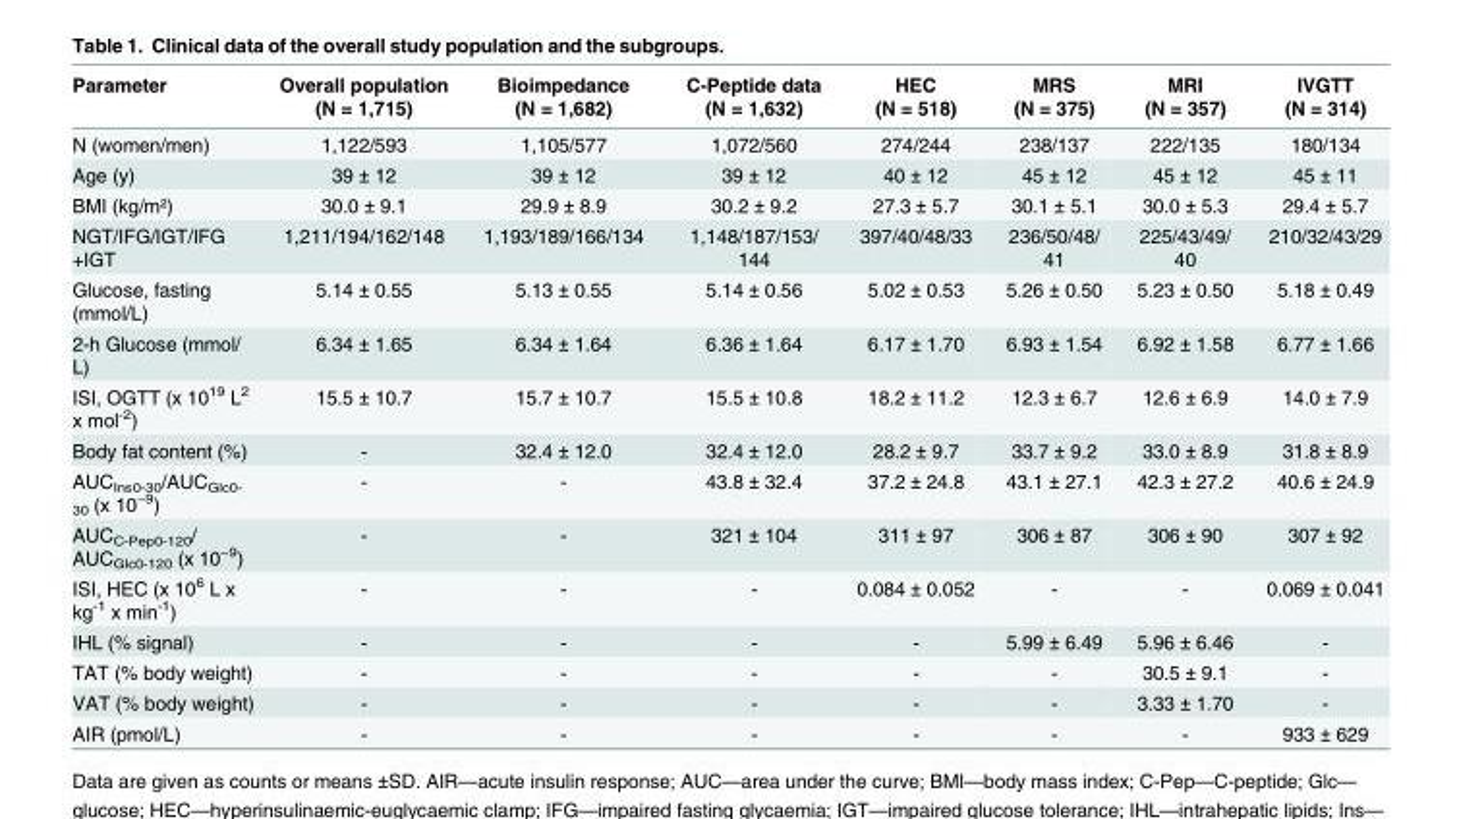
<table><thead><tr><td>Parameter</td><td>Overall population (N = 1,715)</td><td>Bioimpedance (N = 1,682)</td><td>C-Peptide data (N = 1,632)</td><td>HEC (N = 518)</td><td>MRS (N = 375)</td><td>MRI (N = 357)</td><td>IVGTT (N = 314)</td></tr></thead><tbody><tr><td>N (women/men)</td><td>1,122/593</td><td>1,105/577</td><td>1,072/560</td><td>274/244</td><td>238/137</td><td>222/135</td><td>180/134</td></tr><tr><td>Age (y)</td><td>39 ± 12</td><td>39 ± 12</td><td>39 ± 12</td><td>40 ± 12</td><td>45 ± 12</td><td>45 ± 12</td><td>45 ± 11</td></tr><tr><td>BMI (kg/m²)</td><td>30.0 ± 9.1</td><td>29.9 ± 8.9</td><td>30.2 ± 9.2</td><td>27.3 ± 5.7</td><td>30.1 ± 5.1</td><td>30.0 ± 5.3</td><td>29.4 ± 5.7</td></tr><tr><td>NGT/IFG/IGT/IFG +IGT</td><td>1,211/194/162/148</td><td>1,193/189/166/134</td><td>1,148/187/153/ 144</td><td>397/40/48/33</td><td>236/50/48/ 41</td><td>225/43/49/ 40</td><td>210/32/43/29</td></tr><tr><td>Glucose, fasting (mmol/L)</td><td>5.14 ± 0.55</td><td>5.13 ± 0.55</td><td>5.14 ± 0.56</td><td>5.02 ± 0.53</td><td>5.26 ± 0.50</td><td>5.23 ± 0.50</td><td>5.18 ± 0.49</td></tr><tr><td>2-h Glucose (mmol/ L)</td><td>6.34 ± 1.65</td><td>6.34 ± 1.64</td><td>6.36 ± 1.64</td><td>6.17 ± 1.70</td><td>6.93 ± 1.54</td><td>6.92 ± 1.58</td><td>6.77 ± 1.66</td></tr><tr><td>ISI, OGTT (x 10<sup>19</sup> L<sup>2</sup> x mol<sup>-2</sup>)</td><td>15.5 ± 10.7</td><td>15.7 ± 10.7</td><td>15.5 ± 10.8</td><td>18.2 ± 11.2</td><td>12.3 ± 6.7</td><td>12.6 ± 6.9</td><td>14.0 ± 7.9</td></tr><tr><td>Body fat content (%)</td><td>-</td><td>32.4 ± 12.0</td><td>32.4 ± 12.0</td><td>28.2 ± 9.7</td><td>33.7 ± 9.2</td><td>33.0 ± 8.9</td><td>31.8 ± 8.9</td></tr><tr><td>AUC<sub>Ins0-30</sub>/AUC<sub>Glc0- 30</sub> (x 10<sup>−9</sup>)</td><td>-</td><td>-</td><td>43.8 ± 32.4</td><td>37.2 ± 24.8</td><td>43.1 ± 27.1</td><td>42.3 ± 27.2</td><td>40.6 ± 24.9</td></tr><tr><td>AUC<sub>C-Pep0-120</sub>/ AUC<sub>Glc0-120</sub> (x 10<sup>−9</sup>)</td><td>-</td><td>-</td><td>321 ± 104</td><td>311 ± 97</td><td>306 ± 87</td><td>306 ± 90</td><td>307 ± 92</td></tr><tr><td>ISI, HEC (x 10<sup>6</sup> L x kg<sup>-1</sup> x min<sup>-1</sup>)</td><td>-</td><td>-</td><td>-</td><td>0.084 ± 0.052</td><td>-</td><td>-</td><td>0.069 ± 0.041</td></tr><tr><td>IHL (% signal)</td><td>-</td><td>-</td><td>-</td><td>-</td><td>5.99 ± 6.49</td><td>5.96 ± 6.46</td><td>-</td></tr><tr><td>TAT (% body weight)</td><td>-</td><td>-</td><td>-</td><td>-</td><td>-</td><td>30.5 ± 9.1</td><td>-</td></tr><tr><td>VAT (% body weight)</td><td>-</td><td>-</td><td>-</td><td>-</td><td>-</td><td>3.33 ± 1.70</td><td>-</td></tr><tr><td>AIR (pmol/L)</td><td>-</td><td>-</td><td>-</td><td>-</td><td>-</td><td>-</td><td>933 ± 629</td></tr></tbody></table>